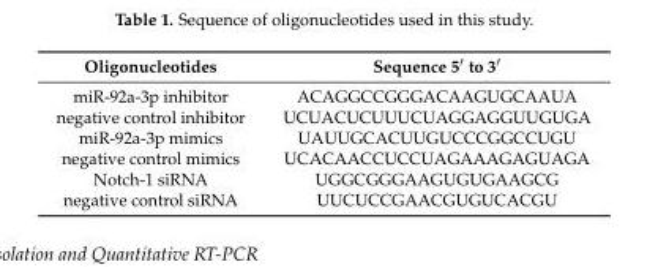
<table><thead><tr><td>Oligonucleotides</td><td>Sequence 5′ to 3′</td></tr></thead><tbody><tr><td>miR-92a-3p inhibitor</td><td>ACAGGCCGGGACAAGUGCAAUA</td></tr><tr><td>negative control inhibitor</td><td>UCUACUCUUUCUAGGAGGUUGUGA</td></tr><tr><td>miR-92a-3p mimics</td><td>UAUUGCACUUGUCCCGGCCUGU</td></tr><tr><td>negative control mimics</td><td>UCACAACCUCCUAGAAAGAGUAGA</td></tr><tr><td>Notch-1 siRNA</td><td>UGGCGGGAAGUGUGAAGCG</td></tr><tr><td>negative control siRNA</td><td>UUCUCCGAACGUGUCACGU</td></tr></tbody></table>